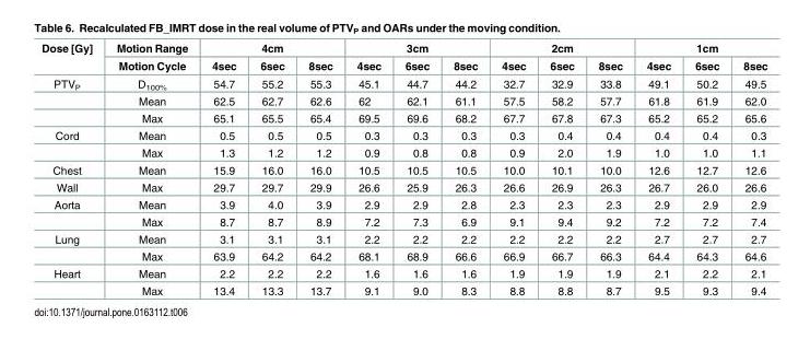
<table><thead><tr><td rowspan="2">Dose [Gy]</td><td rowspan="2">Motion Range Motion Cycle</td><td colspan="3">4cm</td><td colspan="3">3cm</td><td colspan="3">2cm</td><td colspan="3">1cm</td></tr><tr><td>4sec</td><td>6sec</td><td>8sec</td><td>4sec</td><td>6sec</td><td>8sec</td><td>4sec</td><td>6sec</td><td>8sec</td><td>4sec</td><td>6sec</td><td>8sec</td></tr></thead><tbody><tr><td rowspan="3">PTV<sub>P</sub></td><td>D<sub>100%</sub></td><td>54.7</td><td>55.2</td><td>55.3</td><td>45.1</td><td>44.7</td><td>44.2</td><td>32.7</td><td>32.9</td><td>33.8</td><td>49.1</td><td>50.2</td><td>49.5</td></tr><tr><td>Mean</td><td>62.5</td><td>62.7</td><td>62.6</td><td>62</td><td>62.1</td><td>61.1</td><td>57.5</td><td>58.2</td><td>57.7</td><td>61.8</td><td>61.9</td><td>62.0</td></tr><tr><td>Max</td><td>65.1</td><td>65.5</td><td>65.4</td><td>69.5</td><td>69.6</td><td>68.2</td><td>67.7</td><td>67.8</td><td>67.3</td><td>65.2</td><td>65.2</td><td>65.6</td></tr><tr><td rowspan="2">Cord</td><td>Mean</td><td>0.5</td><td>0.5</td><td>0.5</td><td>0.3</td><td>0.3</td><td>0.3</td><td>0.3</td><td>0.4</td><td>0.4</td><td>0.4</td><td>0.4</td><td>0.3</td></tr><tr><td>Max</td><td>1.3</td><td>1.2</td><td>1.2</td><td>0.9</td><td>0.8</td><td>0.8</td><td>0.9</td><td>2.0</td><td>1.9</td><td>1.0</td><td>1.0</td><td>1.1</td></tr><tr><td>Chest</td><td>Mean</td><td>15.9</td><td>16.0</td><td>16.0</td><td>10.5</td><td>10.5</td><td>10.5</td><td>10.0</td><td>10.1</td><td>10.0</td><td>12.6</td><td>12.7</td><td>12.6</td></tr><tr><td>Wall</td><td>Max</td><td>29.7</td><td>29.7</td><td>29.9</td><td>26.6</td><td>25.9</td><td>26.3</td><td>26.6</td><td>26.9</td><td>26.3</td><td>26.7</td><td>26.0</td><td>26.6</td></tr><tr><td rowspan="2">Aorta</td><td>Mean</td><td>3.9</td><td>4.0</td><td>3.9</td><td>2.9</td><td>2.9</td><td>2.8</td><td>2.3</td><td>2.3</td><td>2.3</td><td>2.9</td><td>2.9</td><td>2.9</td></tr><tr><td>Max</td><td>8.7</td><td>8.7</td><td>8.9</td><td>7.2</td><td>7.3</td><td>6.9</td><td>9.1</td><td>9.4</td><td>9.2</td><td>7.2</td><td>7.2</td><td>7.4</td></tr><tr><td rowspan="2">Lung</td><td>Mean</td><td>3.1</td><td>3.1</td><td>3.1</td><td>2.2</td><td>2.2</td><td>2.2</td><td>2.2</td><td>2.2</td><td>2.2</td><td>2.7</td><td>2.7</td><td>2.7</td></tr><tr><td>Max</td><td>63.9</td><td>64.2</td><td>64.2</td><td>68.1</td><td>68.9</td><td>66.6</td><td>66.9</td><td>66.7</td><td>66.3</td><td>64.4</td><td>64.3</td><td>64.6</td></tr><tr><td rowspan="2">Heart</td><td>Mean</td><td>2.2</td><td>2.2</td><td>2.2</td><td>1.6</td><td>1.6</td><td>1.6</td><td>1.9</td><td>1.9</td><td>1.9</td><td>2.1</td><td>2.2</td><td>2.1</td></tr><tr><td>Max</td><td>13.4</td><td>13.3</td><td>13.7</td><td>9.1</td><td>9.0</td><td>8.3</td><td>8.8</td><td>8.8</td><td>8.7</td><td>9.5</td><td>9.3</td><td>9.4</td></tr></tbody></table>